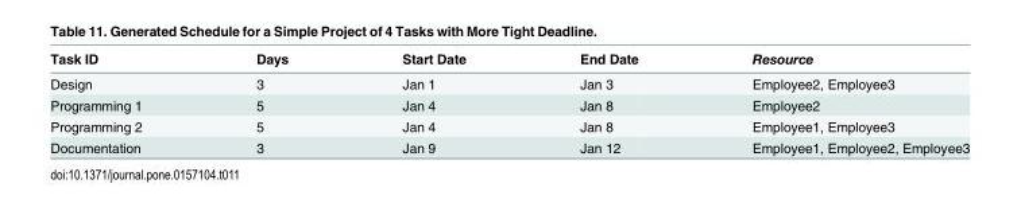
<table><thead><tr><td>Task ID</td><td>Days</td><td>Start Date</td><td>End Date</td><td>Resource</td></tr></thead><tbody><tr><td>Design</td><td>3</td><td>Jan 1</td><td>Jan 3</td><td>Employee2, Employee3</td></tr><tr><td>Programming 1</td><td>5</td><td>Jan 4</td><td>Jan 8</td><td>Employee2</td></tr><tr><td>Programming 2</td><td>5</td><td>Jan 4</td><td>Jan 8</td><td>Employee1, Employee3</td></tr><tr><td>Documentation</td><td>3</td><td>Jan 9</td><td>Jan 12</td><td>Employee1, Employee2, Employee3</td></tr></tbody></table>